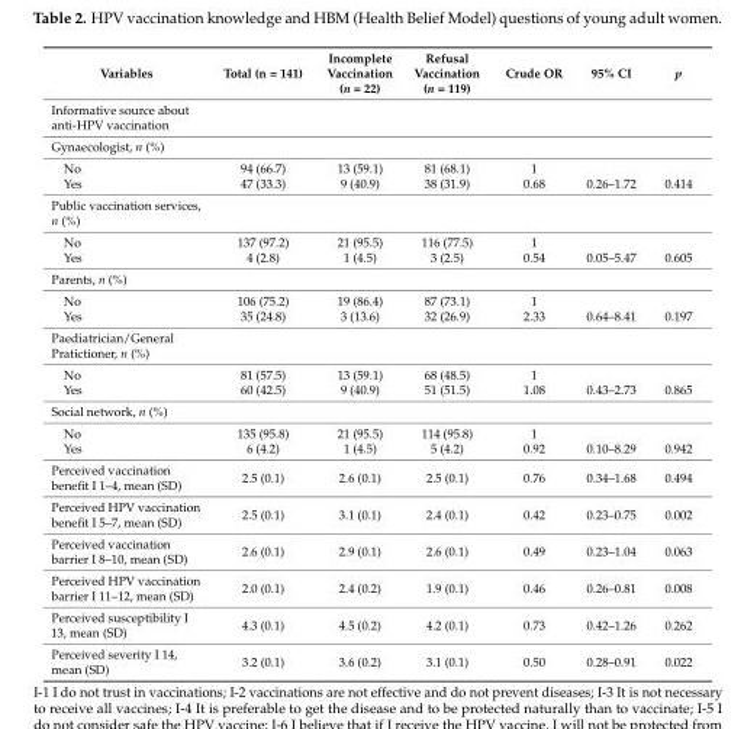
<table><thead><tr><td>Variables</td><td>Total (n = 141)</td><td>Incomplete Vaccination (n = 22)</td><td>Refusal Vaccination (n = 119)</td><td>Crude OR</td><td>95% CI</td><td>p</td></tr></thead><tbody><tr><td colspan="7">Informative source about anti-HPV vaccination</td></tr><tr><td colspan="7">Gynaecologist, n (%)</td></tr><tr><td>No</td><td>94 (66.7)</td><td>13 (59.1)</td><td>81 (68.1)</td><td>1</td><td></td><td></td></tr><tr><td>Yes</td><td>47 (33.3)</td><td>9 (40.9)</td><td>38 (31.9)</td><td>0.68</td><td>0.26–1.72</td><td>0.414</td></tr><tr><td colspan="7">Public vaccination services, n (%)</td></tr><tr><td>No</td><td>137 (97.2)</td><td>21 (95.5)</td><td>116 (77.5)</td><td>1</td><td></td><td></td></tr><tr><td>Yes</td><td>4 (2.8)</td><td>1 (4.5)</td><td>3 (2.5)</td><td>0.54</td><td>0.05–5.47</td><td>0.605</td></tr><tr><td colspan="7">Parents, n (%)</td></tr><tr><td>No</td><td>106 (75.2)</td><td>19 (86.4)</td><td>87 (73.1)</td><td>1</td><td></td><td></td></tr><tr><td>Yes</td><td>35 (24.8)</td><td>3 (13.6)</td><td>32 (26.9)</td><td>2.33</td><td>0.64–8.41</td><td>0.197</td></tr><tr><td colspan="7">Paediatrician/General Pratictioner, n (%)</td></tr><tr><td>No</td><td>81 (57.5)</td><td>13 (59.1)</td><td>68 (48.5)</td><td>1</td><td></td><td></td></tr><tr><td>Yes</td><td>60 (42.5)</td><td>9 (40.9)</td><td>51 (51.5)</td><td>1.08</td><td>0.43–2.73</td><td>0.865</td></tr><tr><td colspan="7">Social network, n (%)</td></tr><tr><td>No</td><td>135 (95.8)</td><td>21 (95.5)</td><td>114 (95.8)</td><td>1</td><td></td><td></td></tr><tr><td>Yes</td><td>6 (4.2)</td><td>1 (4.5)</td><td>5 (4.2)</td><td>0.92</td><td>0.10–8.29</td><td>0.942</td></tr><tr><td>Perceived vaccination benefit I 1–4, mean (SD)</td><td>2.5 (0.1)</td><td>2.6 (0.1)</td><td>2.5 (0.1)</td><td>0.76</td><td>0.34–1.68</td><td>0.494</td></tr><tr><td>Perceived HPV vaccination benefit I 5–7, mean (SD)</td><td>2.5 (0.1)</td><td>3.1 (0.1)</td><td>2.4 (0.1)</td><td>0.42</td><td>0.23–0.75</td><td>0.002</td></tr><tr><td>Perceived vaccination barrier I 8–10, mean (SD)</td><td>2.6 (0.1)</td><td>2.9 (0.1)</td><td>2.6 (0.1)</td><td>0.49</td><td>0.23–1.04</td><td>0.063</td></tr><tr><td>Perceived HPV vaccination barrier I 11–12, mean (SD)</td><td>2.0 (0.1)</td><td>2.4 (0.2)</td><td>1.9 (0.1)</td><td>0.46</td><td>0.26–0.81</td><td>0.008</td></tr><tr><td>Perceived susceptibility I 13, mean (SD)</td><td>4.3 (0.1)</td><td>4.5 (0.2)</td><td>4.2 (0.1)</td><td>0.73</td><td>0.42–1.26</td><td>0.262</td></tr><tr><td>Perceived severity I 14, mean (SD)</td><td>3.2 (0.1)</td><td>3.6 (0.2)</td><td>3.1 (0.1)</td><td>0.50</td><td>0.28–0.91</td><td>0.022</td></tr></tbody></table>